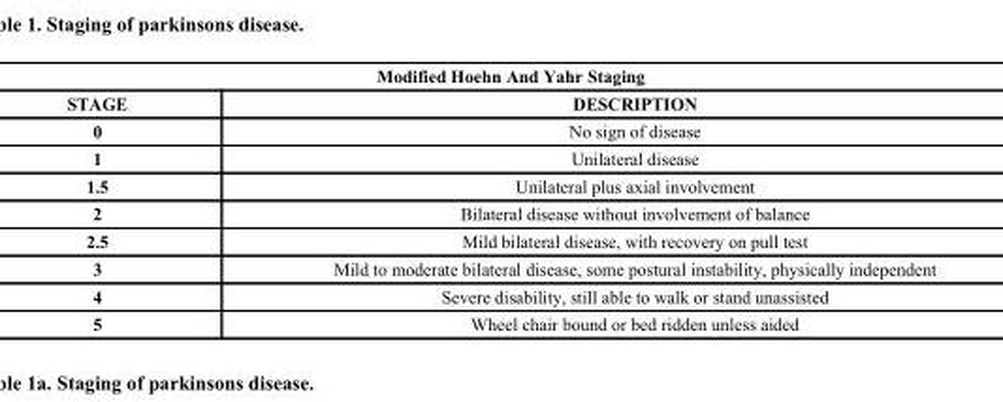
<table><thead><tr><td colspan="2">Modified Hoehn And Yahr Staging</td></tr><tr><td>STAGE</td><td>DESCRIPTION</td></tr></thead><tbody><tr><td>0</td><td>No sign of disease</td></tr><tr><td>1</td><td>Unilateral disease</td></tr><tr><td>1.5</td><td>Unilateral plus axial involvement</td></tr><tr><td>2</td><td>Bilateral disease without involvement of balance</td></tr><tr><td>2.5</td><td>Mild bilateral disease, with recovery on pull test</td></tr><tr><td>3</td><td>Mild to moderate bilateral disease, some postural instability, physically independent</td></tr><tr><td>4</td><td>Severe disability, still able to walk or stand unassisted</td></tr><tr><td>5</td><td>Wheel chair bound or bed ridden unless aided</td></tr></tbody></table>